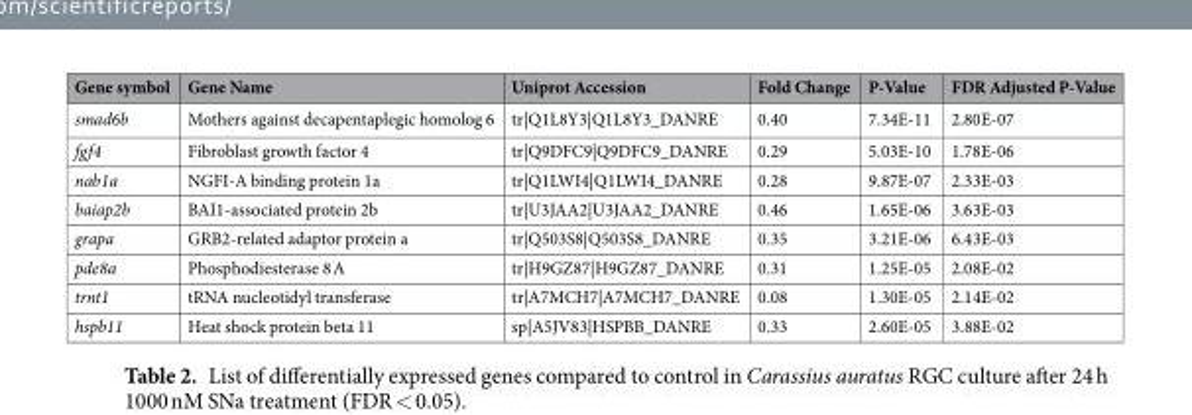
<table><thead><tr><td>Gene symbol</td><td>Gene Name</td><td>Uniprot Accession</td><td>Fold Change</td><td>P-Value</td><td>FDR Adjusted P-Value</td></tr></thead><tbody><tr><td>smad6b</td><td>Mothers against decapentaplegic homolog 6</td><td>tr|Q1L8Y3|Q1L8Y3_DANRE</td><td>0.40</td><td>7.34E-11</td><td>2.80E-07</td></tr><tr><td>fgf4</td><td>Fibroblast growth factor 4</td><td>tr|Q9DFC9|Q9DFC9_DANRE</td><td>0.29</td><td>5.03E-10</td><td>1.78E-06</td></tr><tr><td>nab1a</td><td>NGFI-A binding protein 1a</td><td>tr|Q1LWI4|Q1LWI4_DANRE</td><td>0.28</td><td>9.87E-07</td><td>2.33E-03</td></tr><tr><td>baiap2b</td><td>BAI1-associated protein 2b</td><td>tr|U3JAA2|U3JAA2_DANRE</td><td>0.46</td><td>1.65E-06</td><td>3.63E-03</td></tr><tr><td>grapa</td><td>GRB2-related adaptor protein a</td><td>tr|Q503S8|Q503S8_DANRE</td><td>0.35</td><td>3.21E-06</td><td>6.43E-03</td></tr><tr><td>pde8a</td><td>Phosphodiesterase 8 A</td><td>tr|H9GZ87|H9GZ87_DANRE</td><td>0.31</td><td>1.25E-05</td><td>2.08E-02</td></tr><tr><td>trnt1</td><td>tRNA nucleotidyl transferase</td><td>tr|A7MCH7|A7MCH7_DANRE</td><td>0.08</td><td>1.30E-05</td><td>2.14E-02</td></tr><tr><td>hspb11</td><td>Heat shock protein beta 11</td><td>sp|A5JV83|HSPBB_DANRE</td><td>0.33</td><td>2.60E-05</td><td>3.88E-02</td></tr></tbody></table>